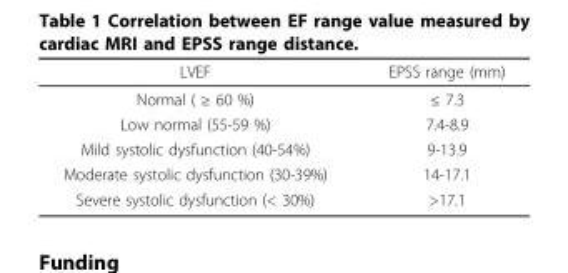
<table><thead><tr><td>LVEF</td><td>EPSS range (mm)</td></tr></thead><tbody><tr><td>Normal ( ≥ 60 %)</td><td>≤ 7.3</td></tr><tr><td>Low normal (55-59 %)</td><td>7.4-8.9</td></tr><tr><td>Mild systolic dysfunction (40-54%)</td><td>9-13.9</td></tr><tr><td>Moderate systolic dysfunction (30-39%)</td><td>14-17.1</td></tr><tr><td>Severe systolic dysfunction (&lt; 30%)</td><td>&gt;17.1</td></tr></tbody></table>